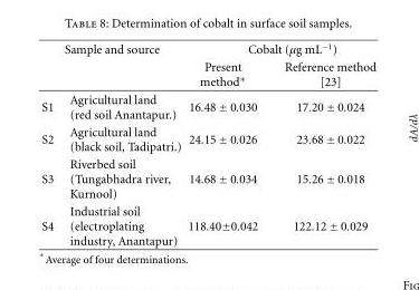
<table><thead><tr><td colspan="2">Sample and source</td><td colspan="2">Cobalt (μg mL<sup>−1</sup>)</td></tr><tr><td></td><td></td><td>Present method∗</td><td>Reference method [23]</td></tr></thead><tbody><tr><td>S1</td><td>Agricultural land (red soil Anantapur.)</td><td>16.48 ± 0.030</td><td>17.20 ± 0.024</td></tr><tr><td>S2</td><td>Agricultural land (black soil, Tadipatri.)</td><td>24.15 ± 0.026</td><td>23.68 ± 0.022</td></tr><tr><td>S3</td><td>Riverbed soil (Tungabhadra river, Kurnool)</td><td>14.68 ± 0.034</td><td>15.26 ± 0.018</td></tr><tr><td>S4</td><td>Industrial soil (electroplating industry, Anantapur)</td><td>118.40±0.042</td><td>122.12 ± 0.029</td></tr></tbody></table>